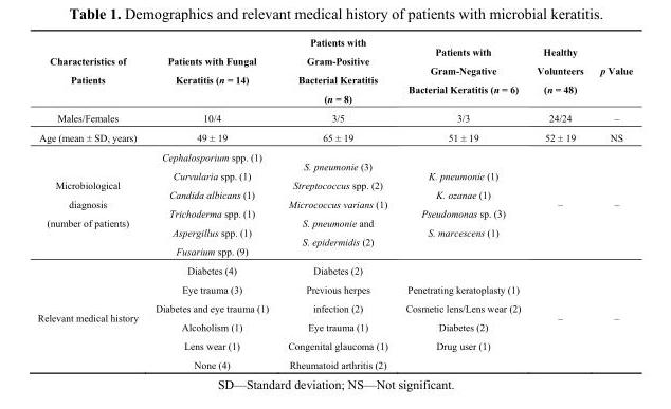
<table><thead><tr><td>Characteristics of Patients</td><td>Patients with Fungal Keratitis (n = 14)</td><td>Patients with Gram-Positive Bacterial Keratitis (n = 8)</td><td>Patients with Gram-Negative Bacterial Keratitis (n = 6)</td><td>Healthy Volunteers (n = 48)</td><td>p Value</td></tr></thead><tbody><tr><td>Males/Females</td><td>10/4</td><td>3/5</td><td>3/3</td><td>24/24</td><td>–</td></tr><tr><td>Age (mean ± SD, years)</td><td>49 ± 19</td><td>65 ± 19</td><td>51 ± 19</td><td>52 ± 19</td><td>NS</td></tr><tr><td>Microbiological diagnosis (number of patients)</td><td>Cephalosporium spp. (1) Curvularia spp. (1) Candida albicans (1) Trichoderma spp. (1) Aspergillus spp. (1) Fusarium spp. (9)</td><td>S. pneumonie (3) Streptococcus spp. (2) Micrococcus varians (1) S. pneumonie and S. epidermidis (2)</td><td>K. pneumonie (1) K. ozanae (1) Pseudomonas sp. (3) S. marcescens (1)</td><td>–</td><td>–</td></tr><tr><td>Relevant medical history</td><td>Diabetes (4) Eye trauma (3) Diabetes and eye trauma (1) Alcoholism (1) Lens wear (1) None (4)</td><td>Diabetes (2) Previous herpes infection (2) Eye trauma (1) Congenital glaucoma (1) Rheumatoid arthritis (2)</td><td>Penetrating keratoplasty (1) Cosmetic lens/Lens wear (2) Diabetes (2) Drug user (1)</td><td>–</td><td>–</td></tr></tbody></table>